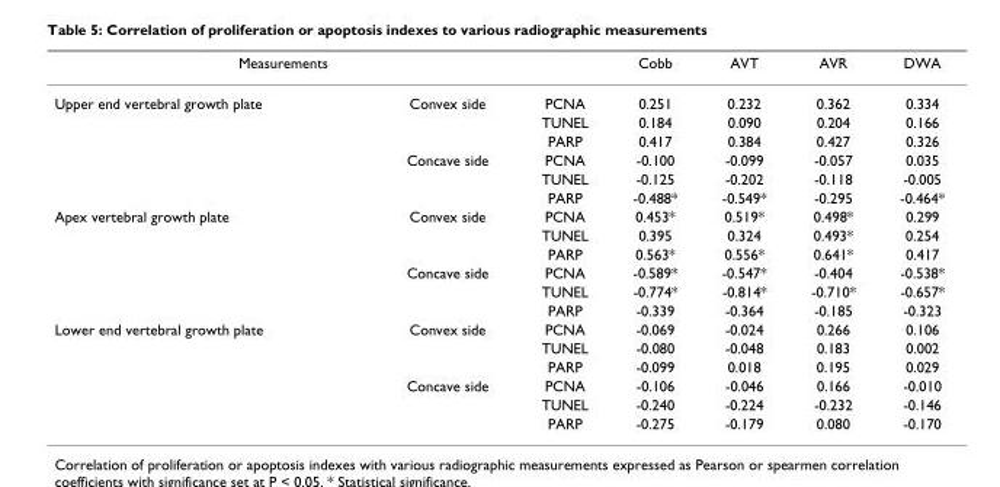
<table><thead><tr><td colspan="2">Measurements</td><td rowspan="2">PCNA</td><td rowspan="2">Cobb 0.251</td><td rowspan="2">AVT 0.232</td><td rowspan="2">AVR 0.362</td><td rowspan="2">DWA 0.334</td></tr><tr><td>Upper end vertebral growth plate</td><td>Convex side</td></tr></thead><tbody><tr><td></td><td></td><td>TUNEL</td><td>0.184</td><td>0.090</td><td>0.204</td><td>0.166</td></tr><tr><td></td><td></td><td>PARP</td><td>0.417</td><td>0.384</td><td>0.427</td><td>0.326</td></tr><tr><td></td><td>Concave side</td><td>PCNA</td><td>-0.100</td><td>-0.099</td><td>-0.057</td><td>0.035</td></tr><tr><td></td><td></td><td>TUNEL</td><td>-0.125</td><td>-0.202</td><td>-0.118</td><td>-0.005</td></tr><tr><td></td><td></td><td>PARP</td><td>-0.488*</td><td>-0.549*</td><td>-0.295</td><td>-0.464*</td></tr><tr><td rowspan="6">Apex vertebral growth plate</td><td>Convex side</td><td>PCNA</td><td>0.453*</td><td>0.519*</td><td>0.498*</td><td>0.299</td></tr><tr><td></td><td>TUNEL</td><td>0.395</td><td>0.324</td><td>0.493*</td><td>0.254</td></tr><tr><td></td><td>PARP</td><td>0.563*</td><td>0.556*</td><td>0.641*</td><td>0.417</td></tr><tr><td>Concave side</td><td>PCNA</td><td>-0.589*</td><td>-0.547*</td><td>-0.404</td><td>-0.538*</td></tr><tr><td></td><td>TUNEL</td><td>-0.774*</td><td>-0.814*</td><td>-0.710*</td><td>-0.657*</td></tr><tr><td></td><td>PARP</td><td>-0.339</td><td>-0.364</td><td>-0.185</td><td>-0.323</td></tr><tr><td rowspan="6">Lower end vertebral growth plate</td><td>Convex side</td><td>PCNA</td><td>-0.069</td><td>-0.024</td><td>0.266</td><td>0.106</td></tr><tr><td></td><td>TUNEL</td><td>-0.080</td><td>-0.048</td><td>0.183</td><td>0.002</td></tr><tr><td></td><td>PARP</td><td>-0.099</td><td>0.018</td><td>0.195</td><td>0.029</td></tr><tr><td>Concave side</td><td>PCNA</td><td>-0.106</td><td>-0.046</td><td>0.166</td><td>-0.010</td></tr><tr><td></td><td>TUNEL</td><td>-0.240</td><td>-0.224</td><td>-0.232</td><td>-0.146</td></tr><tr><td></td><td>PARP</td><td>-0.275</td><td>-0.179</td><td>0.080</td><td>-0.170</td></tr></tbody></table>